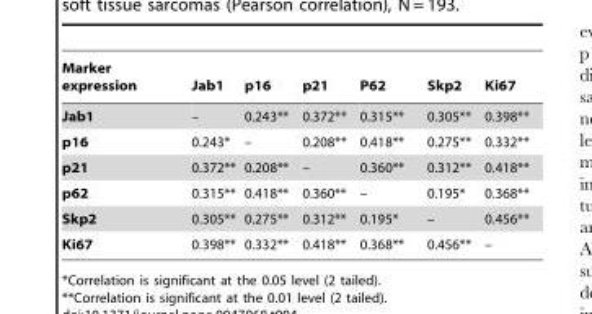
<table><thead><tr><td>Marker expression</td><td>Jab1</td><td>p16</td><td>p21</td><td>P62</td><td>Skp2</td><td>Ki67</td></tr></thead><tbody><tr><td>Jab1</td><td>–</td><td>0.243**</td><td>0.372**</td><td>0.315**</td><td>0.305**</td><td>0.398**</td></tr><tr><td>p16</td><td>0.243*</td><td>–</td><td>0.208**</td><td>0.418**</td><td>0.275**</td><td>0.332**</td></tr><tr><td>p21</td><td>0.372**</td><td>0.208**</td><td>–</td><td>0.360**</td><td>0.312**</td><td>0.418**</td></tr><tr><td>p62</td><td>0.315**</td><td>0.418**</td><td>0.360**</td><td>–</td><td>0.195*</td><td>0.368**</td></tr><tr><td>Skp2</td><td>0.305**</td><td>0.275**</td><td>0.312**</td><td>0.195*</td><td>–</td><td>0.456**</td></tr><tr><td>Ki67</td><td>0.398**</td><td>0.332**</td><td>0.418**</td><td>0.368**</td><td>0.456**</td><td>–</td></tr></tbody></table>